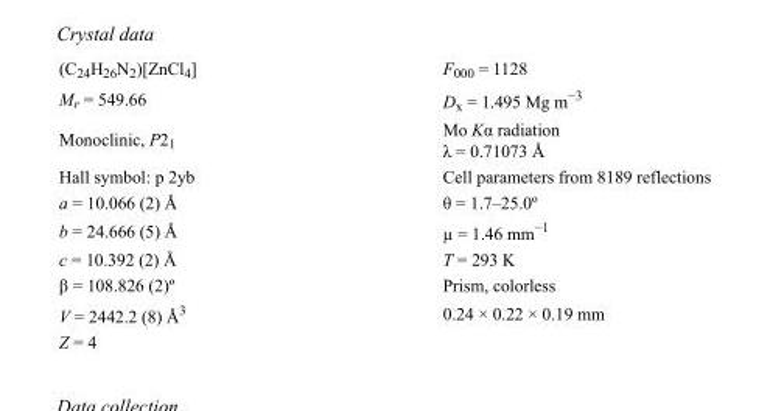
<table><tbody><tr><td>(C<sub>24</sub>H<sub>26</sub>N<sub>2</sub>)[ZnCl<sub>4</sub>]</td><td>F000 = 1128</td></tr><tr><td>M<sub>r</sub> = 549.66</td><td>D<sub>x</sub> = 1.495 Mg m<sup>−3</sup></td></tr><tr><td>Monoclinic, P2<sub>1</sub></td><td>Mo Kα radiation λ = 0.71073 Å</td></tr><tr><td>Hall symbol: p 2yb</td><td>Cell parameters from 8189 reflections</td></tr><tr><td>a = 10.066 (2) Å</td><td>θ = 1.7–25.0º</td></tr><tr><td>b = 24.666 (5) Å</td><td>µ = 1.46 mm<sup>−1</sup></td></tr><tr><td>c = 10.392 (2) Å</td><td>T = 293 K</td></tr><tr><td>β = 108.826 (2)º</td><td>Prism, colorless</td></tr><tr><td>V = 2442.2 (8) Å<sup>3</sup></td><td>0.24 × 0.22 × 0.19 mm</td></tr><tr><td>Z = 4</td><td></td></tr></tbody></table>